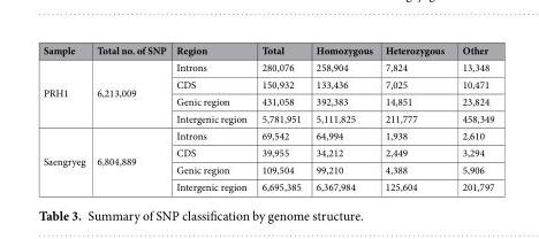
<table><thead><tr><td>Sample</td><td>Total no. of SNP</td><td>Region</td><td>Total</td><td>Homozygous</td><td>Heterozygous</td><td>Other</td></tr></thead><tbody><tr><td rowspan="4">PRH1</td><td rowspan="4">6,213,009</td><td>Introns</td><td>280,076</td><td>258,904</td><td>7,824</td><td>13,348</td></tr><tr><td>CDS</td><td>150,932</td><td>133,436</td><td>7,025</td><td>10,471</td></tr><tr><td>Genic region</td><td>431,058</td><td>392,383</td><td>14,851</td><td>23,824</td></tr><tr><td>Intergenic region</td><td>5,781,951</td><td>5,111,825</td><td>211,777</td><td>458,349</td></tr><tr><td rowspan="4">Saengryeg</td><td rowspan="4">6,804,889</td><td>Introns</td><td>69,542</td><td>64,994</td><td>1,938</td><td>2,610</td></tr><tr><td>CDS</td><td>39,955</td><td>34,212</td><td>2,449</td><td>3,294</td></tr><tr><td>Genic region</td><td>109,504</td><td>99,210</td><td>4,388</td><td>5,906</td></tr><tr><td>Intergenic region</td><td>6,695,385</td><td>6,367,984</td><td>125,604</td><td>201,797</td></tr></tbody></table>